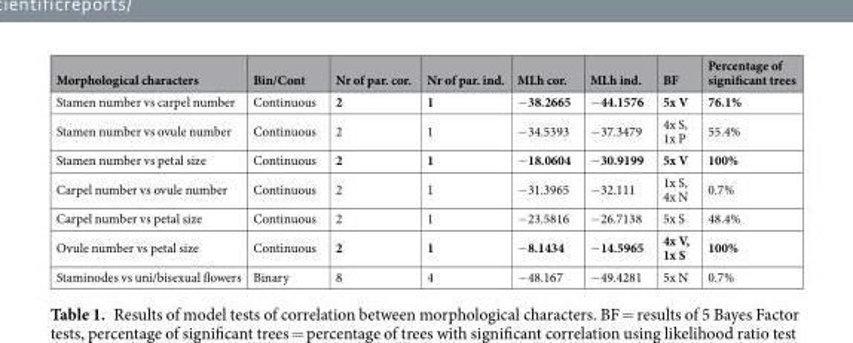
<table><thead><tr><td>Morphological characters</td><td>Bin/Cont</td><td>Nr of par. cor.</td><td>Nr of par. ind.</td><td>MLh cor.</td><td>MLh ind.</td><td>BF</td><td>Percentage of significant trees</td></tr></thead><tbody><tr><td>Stamen number vs carpel number</td><td>Continuous</td><td>2</td><td>1</td><td>−38.2665</td><td>−44.1576</td><td>5x V</td><td>76.1%</td></tr><tr><td>Stamen number vs ovule number</td><td>Continuous</td><td>2</td><td>1</td><td>−34.5393</td><td>−37.3479</td><td>4x S, 1x P</td><td>55.4%</td></tr><tr><td>Stamen number vs petal size</td><td>Continuous</td><td>2</td><td>1</td><td>−18.0604</td><td>−30.9199</td><td>5x V</td><td>100%</td></tr><tr><td>Carpel number vs ovule number</td><td>Continuous</td><td>2</td><td>1</td><td>−31.3965</td><td>−32.111</td><td>1x S, 4x N</td><td>0.7%</td></tr><tr><td>Carpel number vs petal size</td><td>Continuous</td><td>2</td><td>1</td><td>−23.5816</td><td>−26.7138</td><td>5x S</td><td>48.4%</td></tr><tr><td>Ovule number vs petal size</td><td>Continuous</td><td>2</td><td>1</td><td>−8.1434</td><td>−14.5965</td><td>4x V, 1x S</td><td>100%</td></tr><tr><td>Staminodes vs uni/bisexual flowers</td><td>Binary</td><td>8</td><td>4</td><td>−48.167</td><td>−49.4281</td><td>5x N</td><td>0.7%</td></tr></tbody></table>